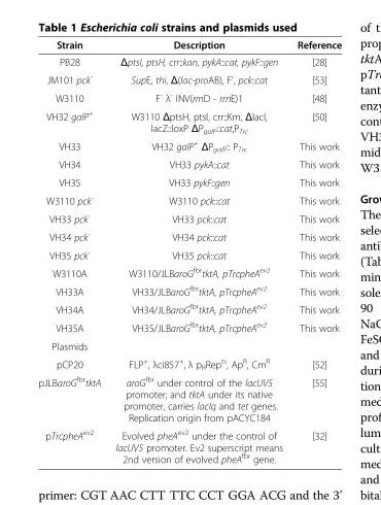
<table><thead><tr><td>Strain</td><td>Description</td><td>Reference</td></tr></thead><tbody><tr><td>PB28</td><td>ΔptsI, ptsH, crr::kan, pykA::cat, pykF::gen</td><td>[28]</td></tr><tr><td>JM101 pck<sup>-</sup></td><td>SupE, thi, Δ(lac-proAB), F’, pck::cat</td><td>[53]</td></tr><tr><td>W3110</td><td>F<sup>-</sup> λ<sup>-</sup> INV(rrnD - rrnE)1</td><td>[48]</td></tr><tr><td>VH32 galP<sup>+</sup></td><td>W3110 ΔptsH, ptsI, crr::Km, ΔlacI, lacZ::loxP ΔP<sub>galP</sub>::cat,P<sub>Trc</sub></td><td>[50]</td></tr><tr><td>VH33</td><td>VH32 galP<sup>+</sup> ΔP<sub>galP</sub>:: P<sub>Trc</sub></td><td>This work</td></tr><tr><td>VH34</td><td>VH33 pykA::cat</td><td>This work</td></tr><tr><td>VH35</td><td>VH33 pykF::gen</td><td>This work</td></tr><tr><td>W3110 pck<sup>-</sup></td><td>W3110 pck::cat</td><td>This work</td></tr><tr><td>VH33 pck<sup>-</sup></td><td>VH33 pck::cat</td><td>This work</td></tr><tr><td>VH34 pck<sup>-</sup></td><td>VH34 pck::cat</td><td>This work</td></tr><tr><td>VH35 pck<sup>-</sup></td><td>VH35 pck::cat</td><td>This work</td></tr><tr><td>W3110A</td><td>W3110/JLBaroG<sup>fbr</sup>tktA, pTrcpheA<sup>ev2</sup></td><td>This work</td></tr><tr><td>VH33A</td><td>VH33/JLBaroG<sup>fbr</sup>tktA, pTrcpheA<sup>ev2</sup></td><td>This work</td></tr><tr><td>VH34A</td><td>VH34/JLBaroG<sup>fbr</sup>tktA, pTrcpheA<sup>ev2</sup></td><td>This work</td></tr><tr><td>VH35A</td><td>VH35/JLBaroG<sup>fbr</sup>tktA, pTrcpheA<sup>ev2</sup></td><td>This work</td></tr><tr><td colspan="3">Plasmids</td></tr><tr><td>pCP20</td><td>FLP<sup>+</sup>, λci857<sup>+</sup>, λ p<sub>R</sub>Rep<sup>ts</sup>, Ap<sup>R</sup>, Cm<sup>R</sup></td><td>[52]</td></tr><tr><td>pJLBaroG<sup>fbr</sup>tktA</td><td>aroG<sup>fbr</sup> under control of the lacUV5 promoter; and tktA under its native promoter, carries lacIq and tet genes. Replication origin from pACYC184</td><td>[55]</td></tr><tr><td>pTrcpheA<sup>ev2</sup></td><td>Evolved pheA<sup>ev2</sup> under the control of lacUV5 promoter. Ev2 superscript means 2nd version of evolved pheA<sup>fbr</sup> gene.</td><td>[32]</td></tr></tbody></table>